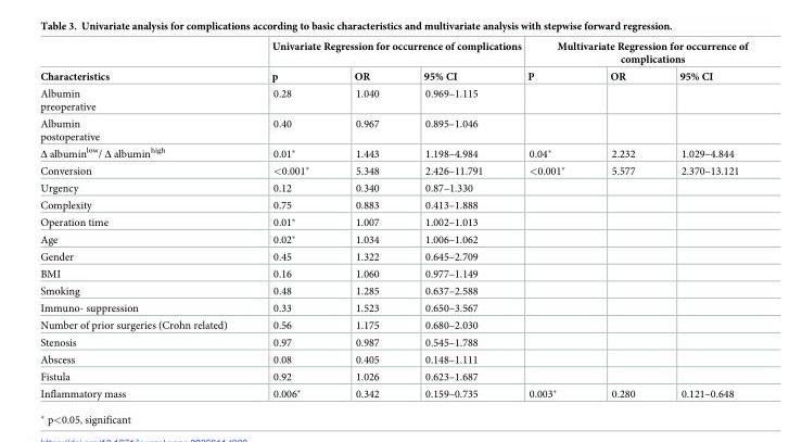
<table><thead><tr><td rowspan="2">Characteristics</td><td colspan="3">Univariate Regression for occurrence of complications</td><td colspan="3">Multivariate Regression for occurrence of complications</td></tr><tr><td>p</td><td>OR</td><td>95% CI</td><td>P</td><td>OR</td><td>95% CI</td></tr></thead><tbody><tr><td>Albumin preoperative</td><td>0.28</td><td>1.040</td><td>0.969–1.115</td><td></td><td></td><td></td></tr><tr><td>Albumin postoperative</td><td>0.40</td><td>0.967</td><td>0.895–1.046</td><td></td><td></td><td></td></tr><tr><td>Δ albumin<sup>low</sup>/ Δ albumin<sup>high</sup></td><td>0.01*</td><td>1.443</td><td>1.198–4.984</td><td>0.04*</td><td>2.232</td><td>1.029–4.844</td></tr><tr><td>Conversion</td><td>&lt;0.001*</td><td>5.348</td><td>2.426–11.791</td><td>&lt;0.001*</td><td>5.577</td><td>2.370–13.121</td></tr><tr><td>Urgency</td><td>0.12</td><td>0.340</td><td>0.87–1.330</td><td></td><td></td><td></td></tr><tr><td>Complexity</td><td>0.75</td><td>0.883</td><td>0.413–1.888</td><td></td><td></td><td></td></tr><tr><td>Operation time</td><td>0.01*</td><td>1.007</td><td>1.002–1.013</td><td></td><td></td><td></td></tr><tr><td>Age</td><td>0.02*</td><td>1.034</td><td>1.006–1.062</td><td></td><td></td><td></td></tr><tr><td>Gender</td><td>0.45</td><td>1.322</td><td>0.645–2.709</td><td></td><td></td><td></td></tr><tr><td>BMI</td><td>0.16</td><td>1.060</td><td>0.977–1.149</td><td></td><td></td><td></td></tr><tr><td>Smoking</td><td>0.48</td><td>1.285</td><td>0.637–2.588</td><td></td><td></td><td></td></tr><tr><td>Immuno- suppression</td><td>0.33</td><td>1.523</td><td>0.650–3.567</td><td></td><td></td><td></td></tr><tr><td>Number of prior surgeries (Crohn related)</td><td>0.56</td><td>1.175</td><td>0.680–2.030</td><td></td><td></td><td></td></tr><tr><td>Stenosis</td><td>0.97</td><td>0.987</td><td>0.545–1.788</td><td></td><td></td><td></td></tr><tr><td>Abscess</td><td>0.08</td><td>0.405</td><td>0.148–1.111</td><td></td><td></td><td></td></tr><tr><td>Fistula</td><td>0.92</td><td>1.026</td><td>0.623–1.687</td><td></td><td></td><td></td></tr><tr><td>Inflammatory mass</td><td>0.006*</td><td>0.342</td><td>0.159–0.735</td><td>0.003*</td><td>0.280</td><td>0.121–0.648</td></tr></tbody></table>